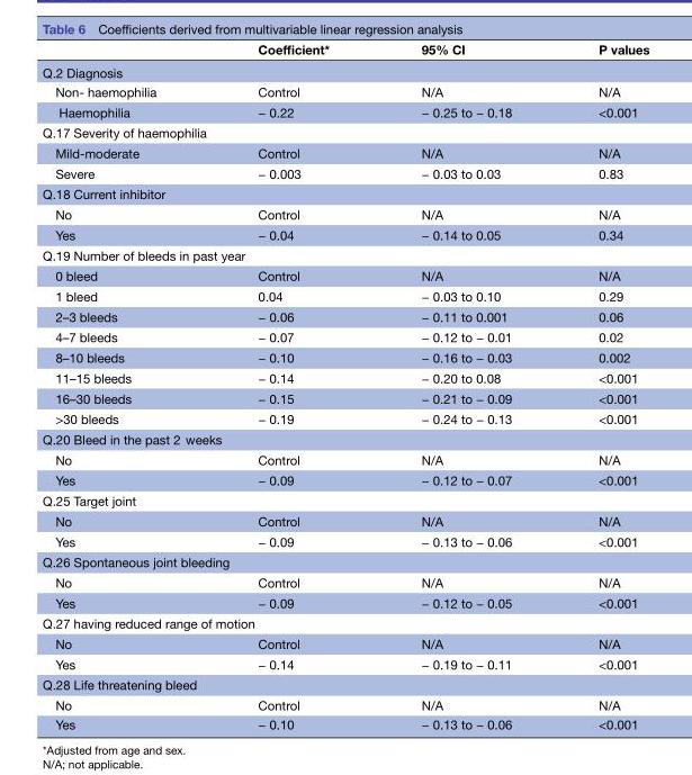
<table><thead><tr><td></td><td>Coefficient*</td><td>95% CI</td><td>P values</td></tr></thead><tbody><tr><td colspan="4">Q.2 Diagnosis</td></tr><tr><td>Non- haemophilia</td><td>Control</td><td>N/A</td><td>N/A</td></tr><tr><td>Haemophilia</td><td>− 0.22</td><td>− 0.25 to − 0.18</td><td>&lt;0.001</td></tr><tr><td colspan="4">Q.17 Severity of haemophilia</td></tr><tr><td>Mild-moderate</td><td>Control</td><td>N/A</td><td>N/A</td></tr><tr><td>Severe</td><td>− 0.003</td><td>− 0.03 to 0.03</td><td>0.83</td></tr><tr><td colspan="4">Q.18 Current inhibitor</td></tr><tr><td>No</td><td>Control</td><td>N/A</td><td>N/A</td></tr><tr><td>Yes</td><td>− 0.04</td><td>− 0.14 to 0.05</td><td>0.34</td></tr><tr><td colspan="4">Q.19 Number of bleeds in past year</td></tr><tr><td>0 bleed</td><td>Control</td><td>N/A</td><td>N/A</td></tr><tr><td>1 bleed</td><td>0.04</td><td>− 0.03 to 0.10</td><td>0.29</td></tr><tr><td>2–3 bleeds</td><td>− 0.06</td><td>− 0.11 to 0.001</td><td>0.06</td></tr><tr><td>4–7 bleeds</td><td>− 0.07</td><td>− 0.12 to − 0.01</td><td>0.02</td></tr><tr><td>8–10 bleeds</td><td>− 0.10</td><td>− 0.16 to − 0.03</td><td>0.002</td></tr><tr><td>11–15 bleeds</td><td>− 0.14</td><td>− 0.20 to 0.08</td><td>&lt;0.001</td></tr><tr><td>16–30 bleeds</td><td>− 0.15</td><td>− 0.21 to − 0.09</td><td>&lt;0.001</td></tr><tr><td>&gt;30 bleeds</td><td>− 0.19</td><td>− 0.24 to − 0.13</td><td>&lt;0.001</td></tr><tr><td colspan="4">Q.20 Bleed in the past 2 weeks</td></tr><tr><td>No</td><td>Control</td><td>N/A</td><td>N/A</td></tr><tr><td>Yes</td><td>− 0.09</td><td>− 0.12 to − 0.07</td><td>&lt;0.001</td></tr><tr><td colspan="4">Q.25 Target joint</td></tr><tr><td>No</td><td>Control</td><td>N/A</td><td>N/A</td></tr><tr><td>Yes</td><td>− 0.09</td><td>− 0.13 to − 0.06</td><td>&lt;0.001</td></tr><tr><td colspan="4">Q.26 Spontaneous joint bleeding</td></tr><tr><td>No</td><td>Control</td><td>N/A</td><td>N/A</td></tr><tr><td>Yes</td><td>− 0.09</td><td>− 0.12 to − 0.05</td><td>&lt;0.001</td></tr><tr><td colspan="4">Q.27 having reduced range of motion</td></tr><tr><td>No</td><td>Control</td><td>N/A</td><td>N/A</td></tr><tr><td>Yes</td><td>− 0.14</td><td>− 0.19 to − 0.11</td><td>&lt;0.001</td></tr><tr><td colspan="4">Q.28 Life threatening bleed</td></tr><tr><td>No</td><td>Control</td><td>N/A</td><td>N/A</td></tr><tr><td>Yes</td><td>− 0.10</td><td>− 0.13 to − 0.06</td><td>&lt;0.001</td></tr></tbody></table>